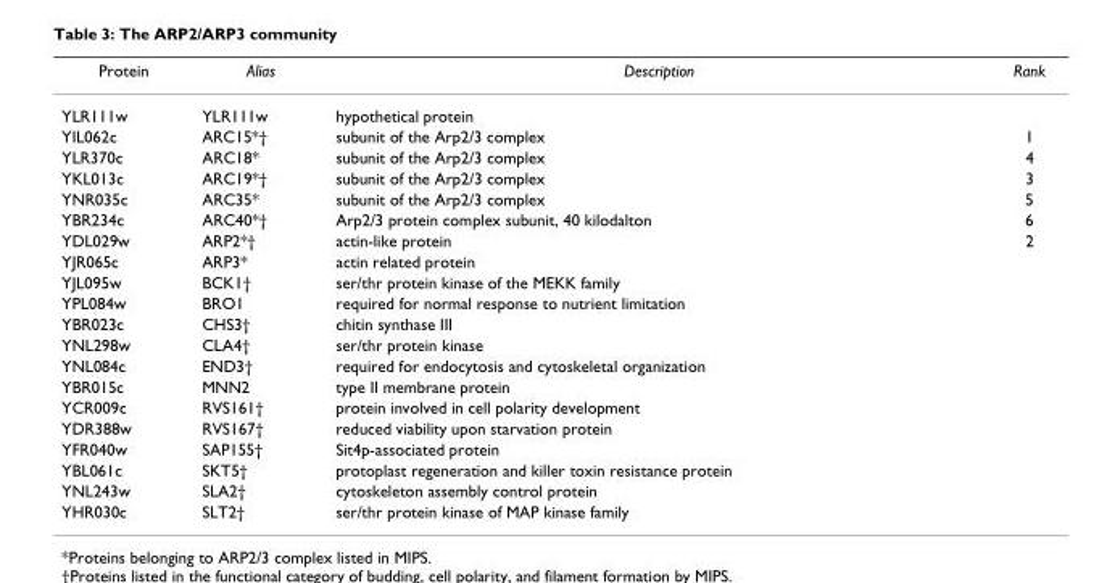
<table><thead><tr><td>Protein</td><td>Alias</td><td>Description</td><td>Rank</td></tr></thead><tbody><tr><td>YLR111w</td><td>YLR111w</td><td>hypothetical protein</td><td></td></tr><tr><td>YIL062c</td><td>ARC15*†</td><td>subunit of the Arp2/3 complex</td><td>1</td></tr><tr><td>YLR370c</td><td>ARC18*</td><td>subunit of the Arp2/3 complex</td><td>4</td></tr><tr><td>YKL013c</td><td>ARC19*†</td><td>subunit of the Arp2/3 complex</td><td>3</td></tr><tr><td>YNR035c</td><td>ARC35*</td><td>subunit of the Arp2/3 complex</td><td>5</td></tr><tr><td>YBR234c</td><td>ARC40*†</td><td>Arp2/3 protein complex subunit, 40 kilodalton</td><td>6</td></tr><tr><td>YDL029w</td><td>ARP2*†</td><td>actin-like protein</td><td>2</td></tr><tr><td>YJR065c</td><td>ARP3*</td><td>actin related protein</td><td></td></tr><tr><td>YJL095w</td><td>BCK1†</td><td>ser/thr protein kinase of the MEKK family</td><td></td></tr><tr><td>YPL084w</td><td>BRO1</td><td>required for normal response to nutrient limitation</td><td></td></tr><tr><td>YBR023c</td><td>CHS3†</td><td>chitin synthase III</td><td></td></tr><tr><td>YNL298w</td><td>CLA4†</td><td>ser/thr protein kinase</td><td></td></tr><tr><td>YNL084c</td><td>END3†</td><td>required for endocytosis and cytoskeletal organization</td><td></td></tr><tr><td>YBR015c</td><td>MNN2</td><td>type II membrane protein</td><td></td></tr><tr><td>YCR009c</td><td>RVS161†</td><td>protein involved in cell polarity development</td><td></td></tr><tr><td>YDR388w</td><td>RVS167†</td><td>reduced viability upon starvation protein</td><td></td></tr><tr><td>YFR040w</td><td>SAP155†</td><td>Sit4p-associated protein</td><td></td></tr><tr><td>YBL061c</td><td>SKT5†</td><td>protoplast regeneration and killer toxin resistance protein</td><td></td></tr><tr><td>YNL243w</td><td>SLA2†</td><td>cytoskeleton assembly control protein</td><td></td></tr><tr><td>YHR030c</td><td>SLT2†</td><td>ser/thr protein kinase of MAP kinase family</td><td></td></tr></tbody></table>